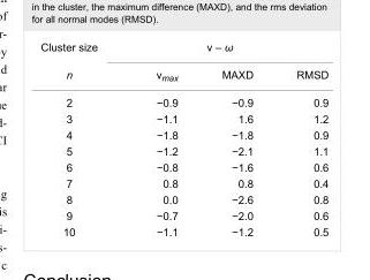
<table><tbody><tr><td>Cluster size</td><td colspan="3">ν – ω</td></tr><tr><td>n</td><td>ν<sub>max</sub></td><td>MAXD</td><td>RMSD</td></tr><tr><td>2</td><td>−0.9</td><td>−0.9</td><td>0.9</td></tr><tr><td>3</td><td>−1.1</td><td>1.6</td><td>1.2</td></tr><tr><td>4</td><td>−1.8</td><td>−1.8</td><td>0.9</td></tr><tr><td>5</td><td>−1.2</td><td>−2.1</td><td>1.1</td></tr><tr><td>6</td><td>−0.8</td><td>−1.6</td><td>0.6</td></tr><tr><td>7</td><td>0.8</td><td>0.8</td><td>0.4</td></tr><tr><td>8</td><td>0.0</td><td>−2.6</td><td>0.8</td></tr><tr><td>9</td><td>−0.7</td><td>−2.0</td><td>0.6</td></tr><tr><td>10</td><td>−1.1</td><td>−1.2</td><td>0.5</td></tr></tbody></table>